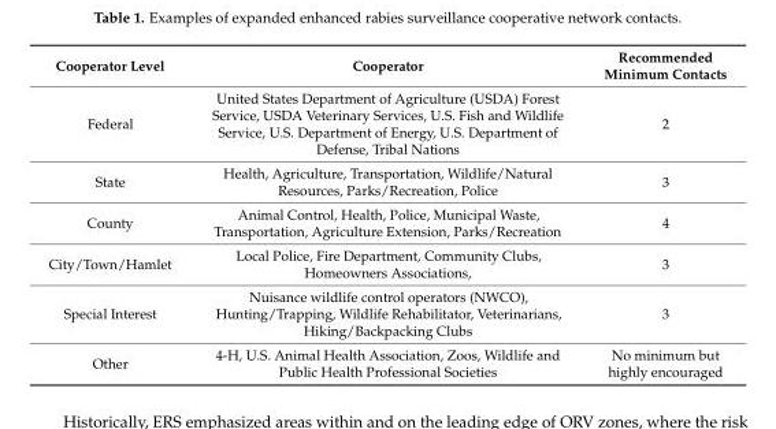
<table><thead><tr><td>Cooperator Level</td><td>Cooperator</td><td>Recommended Minimum Contacts</td></tr></thead><tbody><tr><td>Federal</td><td>United States Department of Agriculture (USDA) Forest Service, USDA Veterinary Services, U.S. Fish and Wildlife Service, U.S. Department of Energy, U.S. Department of Defense, Tribal Nations</td><td>2</td></tr><tr><td>State</td><td>Health, Agriculture, Transportation, Wildlife/Natural Resources, Parks/Recreation, Police</td><td>3</td></tr><tr><td>County</td><td>Animal Control, Health, Police, Municipal Waste, Transportation, Agriculture Extension, Parks/Recreation</td><td>4</td></tr><tr><td>City/Town/Hamlet</td><td>Local Police, Fire Department, Community Clubs, Homeowners Associations,</td><td>3</td></tr><tr><td>Special Interest</td><td>Nuisance wildlife control operators (NWCO), Hunting/Trapping, Wildlife Rehabilitator, Veterinarians, Hiking/Backpacking Clubs</td><td>3</td></tr><tr><td>Other</td><td>4-H, U.S. Animal Health Association, Zoos, Wildlife and Public Health Professional Societies</td><td>No minimum but highly encouraged</td></tr></tbody></table>